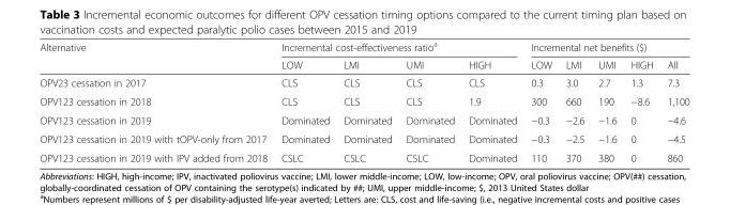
<table><thead><tr><td rowspan="2">Alternative</td><td colspan="4">Incremental cost-effectiveness ratio<sup>a</sup></td><td colspan="5">Incremental net benefits ($)</td></tr><tr><td>LOW</td><td>LMI</td><td>UMI</td><td>HIGH</td><td>LOW</td><td>LMI</td><td>UMI</td><td>HIGH</td><td>All</td></tr></thead><tbody><tr><td>OPV23 cessation in 2017</td><td>CLS</td><td>CLS</td><td>CLS</td><td>CLS</td><td>0.3</td><td>3.0</td><td>2.7</td><td>1.3</td><td>7.3</td></tr><tr><td>OPV123 cessation in 2018</td><td>CLS</td><td>CLS</td><td>CLS</td><td>1.9</td><td>300</td><td>660</td><td>190</td><td>−8.6</td><td>1,100</td></tr><tr><td>OPV123 cessation in 2019</td><td>Dominated</td><td>Dominated</td><td>Dominated</td><td>Dominated</td><td>−0.3</td><td>−2.6</td><td>−1.6</td><td>0</td><td>−4.6</td></tr><tr><td>OPV123 cessation in 2019 with tOPV-only from 2017</td><td>Dominated</td><td>Dominated</td><td>Dominated</td><td>Dominated</td><td>−0.3</td><td>−2.5</td><td>−1.6</td><td>0</td><td>−4.5</td></tr><tr><td>OPV123 cessation in 2019 with IPV added from 2018</td><td>CSLC</td><td>CSLC</td><td>CSLC</td><td>Dominated</td><td>110</td><td>370</td><td>380</td><td>0</td><td>860</td></tr></tbody></table>